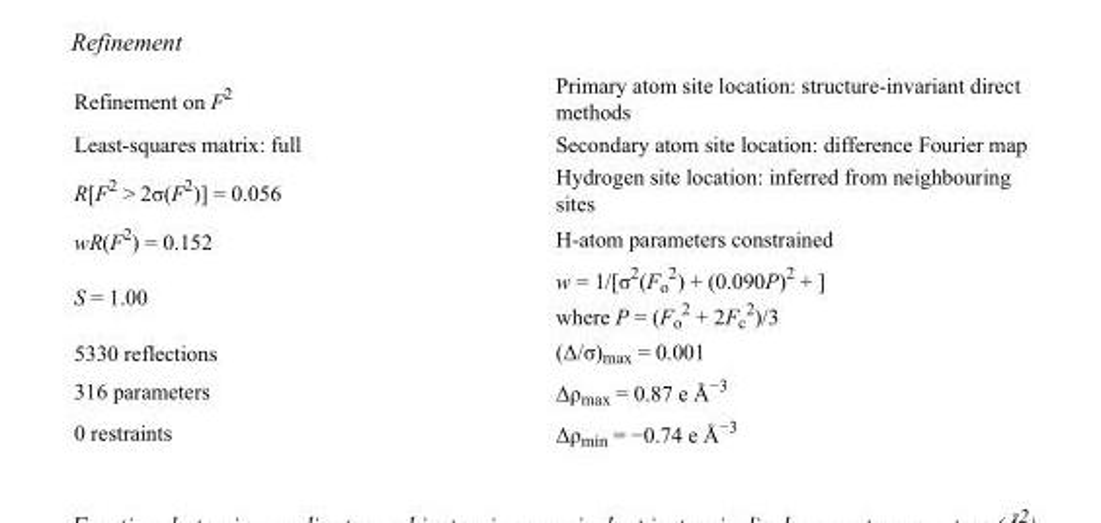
<table><tbody><tr><td>Refinement on F<sup>2</sup></td><td>Primary atom site location: structure-invariant direct methods</td></tr><tr><td>Least-squares matrix: full</td><td>Secondary atom site location: difference Fourier map</td></tr><tr><td>R[F<sup>2</sup> &gt; 2σ(F<sup>2</sup>)] = 0.056</td><td>Hydrogen site location: inferred from neighbouring sites</td></tr><tr><td>wR(F<sup>2</sup>) = 0.152</td><td>H-atom parameters constrained</td></tr><tr><td>S = 1.00</td><td>w = 1/[σ<sup>2</sup>(F<sub>o</sub> <sup>2</sup>) + (0.090P)<sup>2</sup> + ] where P = (F<sub>o</sub> <sup>2</sup> + 2F<sub>c</sub> <sup>2</sup>)/3</td></tr><tr><td>5330 reflections</td><td>(Δ/σ)<sub>max</sub> = 0.001</td></tr><tr><td>316 parameters</td><td>Δρ<sub>max</sub> = 0.87 e Å<sup>−3</sup></td></tr><tr><td>0 restraints</td><td>Δρ<sub>min</sub> = −0.74 e Å<sup>−3</sup></td></tr></tbody></table>